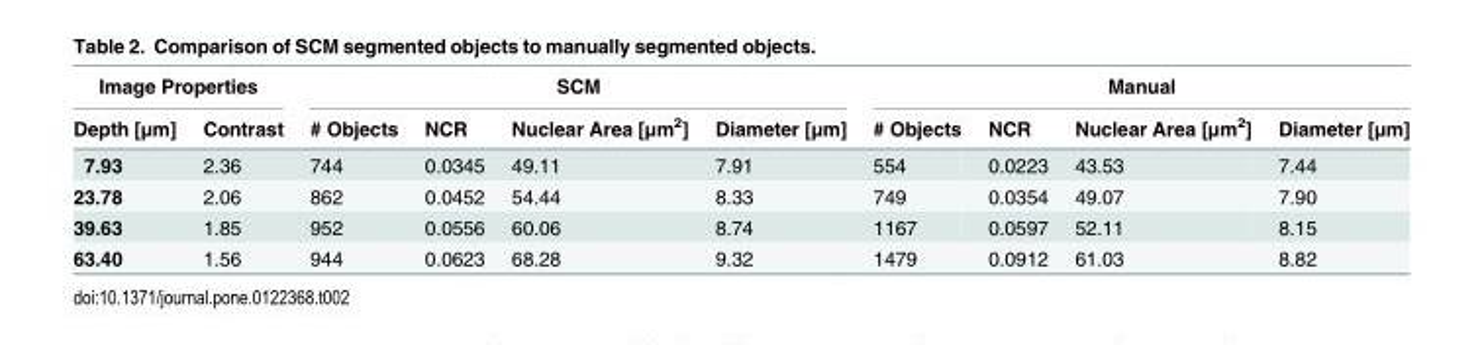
<table><thead><tr><td colspan="2">Image Properties</td><td colspan="4">SCM</td><td colspan="4">Manual</td></tr><tr><td>Depth [μm]</td><td>Contrast</td><td># Objects</td><td>NCR</td><td>Nuclear Area [μm<sup>2</sup>]</td><td>Diameter [μm]</td><td># Objects</td><td>NCR</td><td>Nuclear Area [μm<sup>2</sup>]</td><td>Diameter [μm]</td></tr></thead><tbody><tr><td>7.93</td><td>2.36</td><td>744</td><td>0.0345</td><td>49.11</td><td>7.91</td><td>554</td><td>0.0223</td><td>43.53</td><td>7.44</td></tr><tr><td>23.78</td><td>2.06</td><td>862</td><td>0.0452</td><td>54.44</td><td>8.33</td><td>749</td><td>0.0354</td><td>49.07</td><td>7.90</td></tr><tr><td>39.63</td><td>1.85</td><td>952</td><td>0.0556</td><td>60.06</td><td>8.74</td><td>1167</td><td>0.0597</td><td>52.11</td><td>8.15</td></tr><tr><td>63.40</td><td>1.56</td><td>944</td><td>0.0623</td><td>68.28</td><td>9.32</td><td>1479</td><td>0.0912</td><td>61.03</td><td>8.82</td></tr></tbody></table>